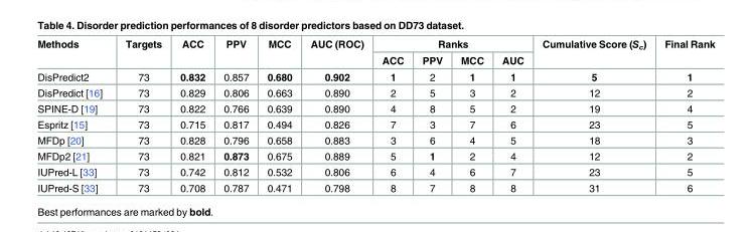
<table><thead><tr><td rowspan="2">Methods</td><td rowspan="2">Targets</td><td rowspan="2">ACC</td><td rowspan="2">PPV</td><td rowspan="2">MCC</td><td rowspan="2">AUC (ROC)</td><td colspan="4">Ranks</td><td rowspan="2">Cumulative Score (S<sub>c</sub>)</td><td rowspan="2">Final Rank</td></tr><tr><td>ACC</td><td>PPV</td><td>MCC</td><td>AUC</td></tr></thead><tbody><tr><td>DisPredict2</td><td>73</td><td>0.832</td><td>0.857</td><td>0.680</td><td>0.902</td><td>1</td><td>2</td><td>1</td><td>1</td><td>5</td><td>1</td></tr><tr><td>DisPredict [16]</td><td>73</td><td>0.829</td><td>0.806</td><td>0.663</td><td>0.890</td><td>2</td><td>5</td><td>3</td><td>2</td><td>12</td><td>2</td></tr><tr><td>SPINE-D [19]</td><td>73</td><td>0.822</td><td>0.766</td><td>0.639</td><td>0.890</td><td>4</td><td>8</td><td>5</td><td>2</td><td>19</td><td>4</td></tr><tr><td>Espritz [15]</td><td>73</td><td>0.715</td><td>0.817</td><td>0.494</td><td>0.826</td><td>7</td><td>3</td><td>7</td><td>6</td><td>23</td><td>5</td></tr><tr><td>MFDp [20]</td><td>73</td><td>0.828</td><td>0.796</td><td>0.658</td><td>0.883</td><td>3</td><td>6</td><td>4</td><td>5</td><td>18</td><td>3</td></tr><tr><td>MFDp2 [21]</td><td>73</td><td>0.821</td><td>0.873</td><td>0.675</td><td>0.889</td><td>5</td><td>1</td><td>2</td><td>4</td><td>12</td><td>2</td></tr><tr><td>IUPred-L [33]</td><td>73</td><td>0.742</td><td>0.812</td><td>0.532</td><td>0.806</td><td>6</td><td>4</td><td>6</td><td>7</td><td>23</td><td>5</td></tr><tr><td>IUPred-S [33]</td><td>73</td><td>0.708</td><td>0.787</td><td>0.471</td><td>0.798</td><td>8</td><td>7</td><td>8</td><td>8</td><td>31</td><td>6</td></tr></tbody></table>